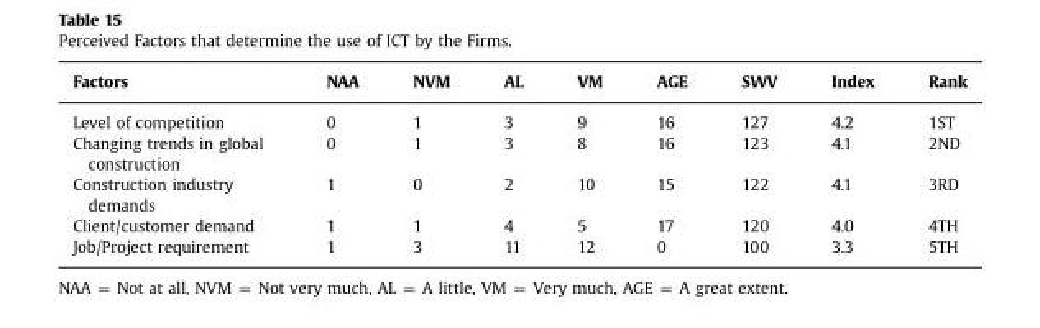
<table><thead><tr><td>Factors</td><td>NAA</td><td>NVM</td><td>AL</td><td>VM</td><td>AGE</td><td>SWV</td><td>Index</td><td>Rank</td></tr></thead><tbody><tr><td>Level of competition</td><td>0</td><td>1</td><td>3</td><td>9</td><td>16</td><td>127</td><td>4.2</td><td>1ST</td></tr><tr><td>Changing trends in global construction</td><td>0</td><td>1</td><td>3</td><td>8</td><td>16</td><td>123</td><td>4.1</td><td>2ND</td></tr><tr><td>Construction industry demands</td><td>1</td><td>0</td><td>2</td><td>10</td><td>15</td><td>122</td><td>4.1</td><td>3RD</td></tr><tr><td>Client/customer demand</td><td>1</td><td>1</td><td>4</td><td>5</td><td>17</td><td>120</td><td>4.0</td><td>4TH</td></tr><tr><td>Job/Project requirement</td><td>1</td><td>3</td><td>11</td><td>12</td><td>0</td><td>100</td><td>3.3</td><td>5TH</td></tr></tbody></table>